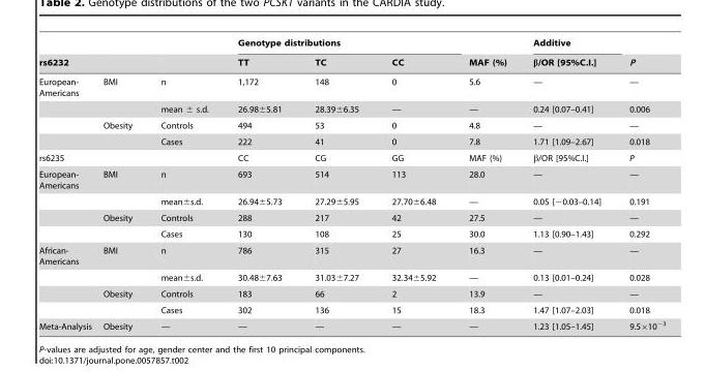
<table><thead><tr><td rowspan="2">rs6232</td><td rowspan="2"></td><td rowspan="2"></td><td colspan="3">Genotype distributions</td><td rowspan="2">MAF (%)</td><td rowspan="2">Additive β/OR [95%C.I.]</td><td rowspan="2">P</td></tr><tr><td>TT</td><td>TC</td><td>CC</td></tr></thead><tbody><tr><td rowspan="4">European- Americans</td><td>BMI</td><td>n</td><td>1,172</td><td>148</td><td>0</td><td>5.6</td><td>—</td><td>—</td></tr><tr><td></td><td>mean ± s.d.</td><td>26.98±5.81</td><td>28.39±6.35</td><td>—</td><td>—</td><td>0.24 [0.07–0.41]</td><td>0.006</td></tr><tr><td>Obesity</td><td>Controls</td><td>494</td><td>53</td><td>0</td><td>4.8</td><td>—</td><td>—</td></tr><tr><td></td><td>Cases</td><td>222</td><td>41</td><td>0</td><td>7.8</td><td>1.71 [1.09–2.67]</td><td>0.018</td></tr><tr><td>rs6235</td><td></td><td></td><td>CC</td><td>CG</td><td>GG</td><td>MAF (%)</td><td>β/OR [95%C.I.]</td><td>P</td></tr><tr><td rowspan="4">European- Americans</td><td>BMI</td><td>n</td><td>693</td><td>514</td><td>113</td><td>28.0</td><td>—</td><td>—</td></tr><tr><td></td><td>mean±s.d.</td><td>26.94±5.73</td><td>27.29±5.95</td><td>27.70±6.48</td><td>—</td><td>0.05 [−0.03–0.14]</td><td>0.191</td></tr><tr><td>Obesity</td><td>Controls</td><td>288</td><td>217</td><td>42</td><td>27.5</td><td>—</td><td>—</td></tr><tr><td></td><td>Cases</td><td>130</td><td>108</td><td>25</td><td>30.0</td><td>1.13 [0.90–1.43]</td><td>0.292</td></tr><tr><td rowspan="4">African- Americans</td><td>BMI</td><td>n</td><td>786</td><td>315</td><td>27</td><td>16.3</td><td>—</td><td>—</td></tr><tr><td></td><td>mean±s.d.</td><td>30.48±7.63</td><td>31.03±7.27</td><td>32.34±5.92</td><td>—</td><td>0.13 [0.01–0.24]</td><td>0.028</td></tr><tr><td>Obesity</td><td>Controls</td><td>183</td><td>66</td><td>2</td><td>13.9</td><td>—</td><td>—</td></tr><tr><td></td><td>Cases</td><td>302</td><td>136</td><td>15</td><td>18.3</td><td>1.47 [1.07–2.03]</td><td>0.018</td></tr><tr><td>Meta-Analysis</td><td>Obesity</td><td>—</td><td>—</td><td>—</td><td>—</td><td>—</td><td>1.23 [1.05–1.45]</td><td>9.5×10<sup>−3</sup></td></tr></tbody></table>